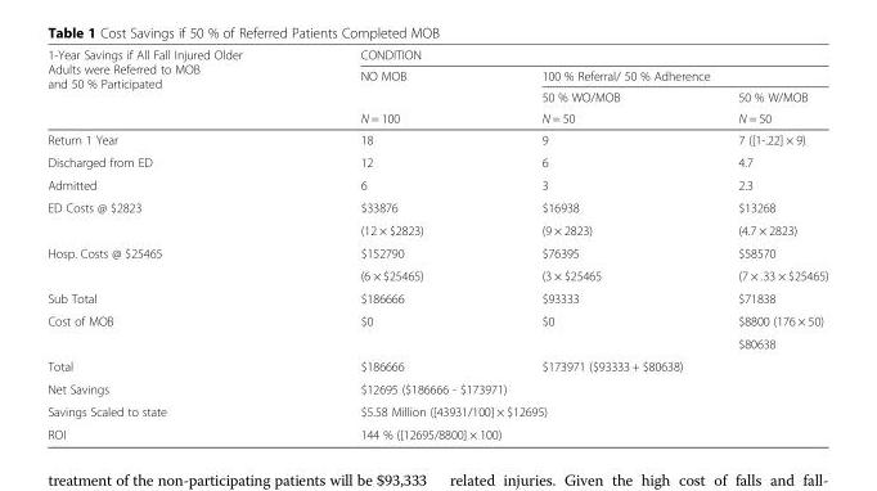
<table><thead><tr><td rowspan="4">1-Year Savings if All Fall Injured Older Adults were Referred to MOB and 50 % Participated</td><td colspan="3">CONDITION</td></tr><tr><td rowspan="3">NO MOB N = 100</td><td colspan="2">100 % Referral/ 50 % Adherence</td></tr><tr><td rowspan="2">50 % WO/MOB N = 50</td><td rowspan="2">50 % W/MOB N = 50</td></tr><tr></tr></thead><tbody><tr><td>Return 1 Year</td><td>18</td><td>9</td><td>7 ([1-.22] × 9)</td></tr><tr><td>Discharged from ED</td><td>12</td><td>6</td><td>4.7</td></tr><tr><td>Admitted</td><td>6</td><td>3</td><td>2.3</td></tr><tr><td rowspan="2">ED Costs @ $2823</td><td>$33876</td><td>$16938</td><td>$13268</td></tr><tr><td>(12 × $2823)</td><td>(9 × 2823)</td><td>(4.7 × 2823)</td></tr><tr><td rowspan="2">Hosp. Costs @ $25465</td><td>$152790</td><td>$76395</td><td>$58570</td></tr><tr><td>(6 × $25465)</td><td>(3 × $25465</td><td>(7 × .33 × $25465)</td></tr><tr><td>Sub Total</td><td>$186666</td><td>$93333</td><td>$71838</td></tr><tr><td rowspan="2">Cost of MOB</td><td>$0</td><td>$0</td><td>$8800 (176 × 50)</td></tr><tr><td></td><td></td><td>$80638</td></tr><tr><td>Total</td><td>$186666</td><td colspan="2">$173971 ($93333 + $80638)</td></tr><tr><td>Net Savings</td><td colspan="3">$12695 ($186666 - $173971)</td></tr><tr><td>Savings Scaled to state</td><td colspan="3">$5.58 Million ([43931/100] × $12695)</td></tr><tr><td>ROI</td><td colspan="3">144 % ([12695/8800] × 100)</td></tr></tbody></table>